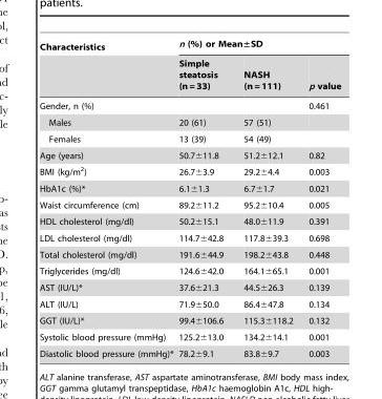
<table><thead><tr><td rowspan="2">Characteristics</td><td colspan="3">n (%) or Mean±SD</td></tr><tr><td>Simple steatosis (n = 33)</td><td>NASH (n = 111)</td><td>p value</td></tr></thead><tbody><tr><td>Gender, n (%)</td><td></td><td></td><td>0.461</td></tr><tr><td>Males</td><td>20 (61)</td><td>57 (51)</td><td></td></tr><tr><td>Females</td><td>13 (39)</td><td>54 (49)</td><td></td></tr><tr><td>Age (years)</td><td>50.7±11.8</td><td>51.2±12.1</td><td>0.82</td></tr><tr><td>BMI (kg/m<sup>2</sup>)</td><td>26.7±3.9</td><td>29.2±4.4</td><td>0.003</td></tr><tr><td>HbA1c (%)*</td><td>6.1±1.3</td><td>6.7±1.7</td><td>0.021</td></tr><tr><td>Waist circumference (cm)</td><td>89.2±11.2</td><td>95.2±10.4</td><td>0.005</td></tr><tr><td>HDL cholesterol (mg/dl)</td><td>50.2±15.1</td><td>48.0±11.9</td><td>0.391</td></tr><tr><td>LDL cholesterol (mg/dl)</td><td>114.7±42.8</td><td>117.8±39.3</td><td>0.698</td></tr><tr><td>Total cholesterol (mg/dl)</td><td>191.6±44.9</td><td>198.2±43.8</td><td>0.448</td></tr><tr><td>Triglycerides (mg/dl)</td><td>124.6±42.0</td><td>164.1±65.1</td><td>0.001</td></tr><tr><td>AST (IU/L)*</td><td>37.6±21.3</td><td>44.5±26.3</td><td>0.139</td></tr><tr><td>ALT (IU/L)</td><td>71.9±50.0</td><td>86.4±47.8</td><td>0.134</td></tr><tr><td>GGT (IU/L)*</td><td>99.4±106.6</td><td>115.3±118.2</td><td>0.132</td></tr><tr><td>Systolic blood pressure (mmHg)</td><td>125.2±13.0</td><td>134.2±14.1</td><td>0.001</td></tr><tr><td>Diastolic blood pressure (mmHg)*</td><td>78.2±9.1</td><td>83.8±9.7</td><td>0.003</td></tr></tbody></table>